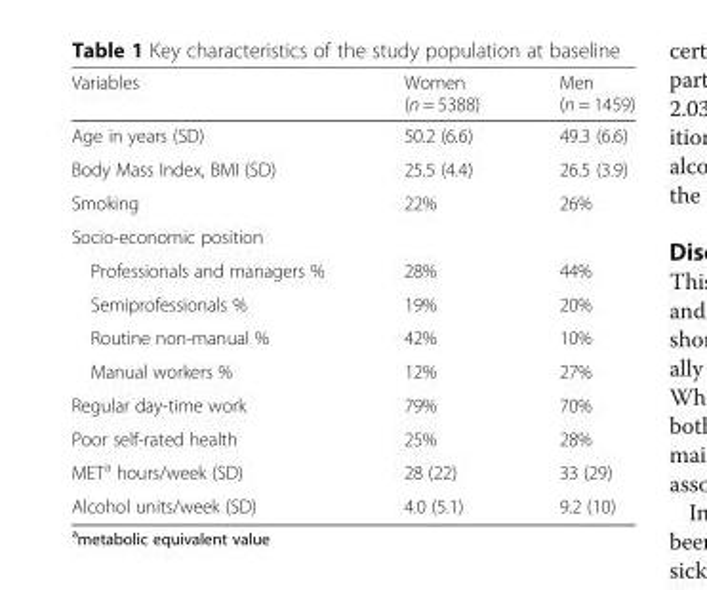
<table><thead><tr><td>Variables</td><td>Women (n = 5388)</td><td>Men (n = 1459)</td></tr></thead><tbody><tr><td>Age in years (SD)</td><td>50.2 (6.6)</td><td>49.3 (6.6)</td></tr><tr><td>Body Mass Index, BMI (SD)</td><td>25.5 (4.4)</td><td>26.5 (3.9)</td></tr><tr><td>Smoking</td><td>22%</td><td>26%</td></tr><tr><td colspan="3">Socio-economic position</td></tr><tr><td>Professionals and managers %</td><td>28%</td><td>44%</td></tr><tr><td>Semiprofessionals %</td><td>19%</td><td>20%</td></tr><tr><td>Routine non-manual %</td><td>42%</td><td>10%</td></tr><tr><td>Manual workers %</td><td>12%</td><td>27%</td></tr><tr><td>Regular day-time work</td><td>79%</td><td>70%</td></tr><tr><td>Poor self-rated health</td><td>25%</td><td>28%</td></tr><tr><td>MET<sup>a</sup> hours/week (SD)</td><td>28 (22)</td><td>33 (29)</td></tr><tr><td>Alcohol units/week (SD)</td><td>4.0 (5.1)</td><td>9.2 (10)</td></tr></tbody></table>